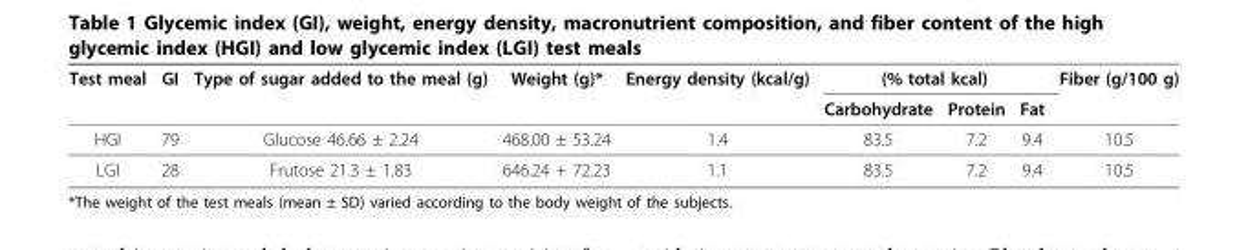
<table><thead><tr><td rowspan="2">Test meal</td><td rowspan="2">GI</td><td rowspan="2">Type of sugar added to the meal (g)</td><td rowspan="2">Weight (g)*</td><td rowspan="2">Energy density (kcal/g)</td><td colspan="3">(% total kcal)</td><td rowspan="2">Fiber (g/100 g)</td></tr><tr><td>Carbohydrate</td><td>Protein</td><td>Fat</td></tr></thead><tbody><tr><td>HGI</td><td>79</td><td>Glucose 46.66 ± 2.24</td><td>468.00 ± 53.24</td><td>1.4</td><td>83.5</td><td>7.2</td><td>9.4</td><td>10.5</td></tr><tr><td>LGI</td><td>28</td><td>Frutose 21.3 ± 1.83</td><td>646.24 + 72.23</td><td>1.1</td><td>83.5</td><td>7.2</td><td>9.4</td><td>10.5</td></tr></tbody></table>